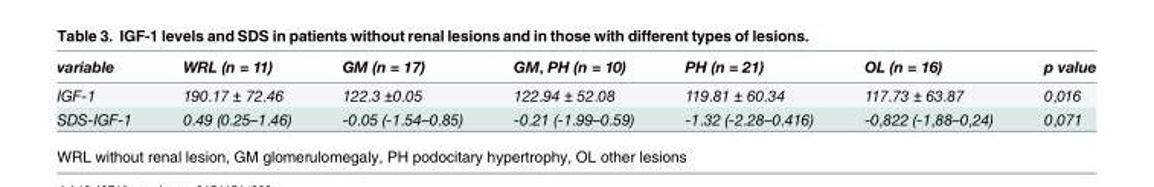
<table><thead><tr><td>variable</td><td>WRL (n = 11)</td><td>GM (n = 17)</td><td>GM, PH (n = 10)</td><td>PH (n = 21)</td><td>OL (n = 16)</td><td>p value</td></tr></thead><tbody><tr><td>IGF-1</td><td>190.17 ± 72.46</td><td>122.3 ±0.05</td><td>122.94 ± 52.08</td><td>119.81 ± 60.34</td><td>117.73 ± 63.87</td><td>0,016</td></tr><tr><td>SDS-IGF-1</td><td>0.49 (0.25–1.46)</td><td>-0.05 (-1.54–0.85)</td><td>-0.21 (-1.99–0.59)</td><td>-1.32 (-2.28–0.416)</td><td>-0,822 (-1,88–0,24)</td><td>0,071</td></tr></tbody></table>